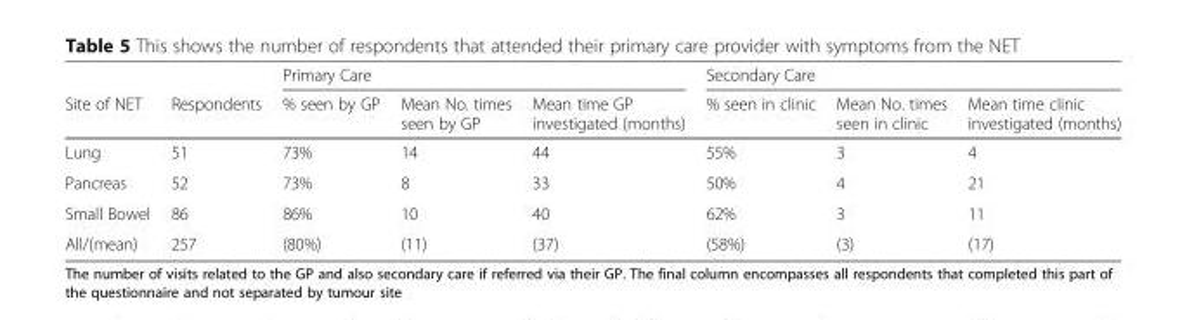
<table><thead><tr><td rowspan="2">Site of NET</td><td rowspan="2">Respondents</td><td colspan="3">Primary Care</td><td colspan="3">Secondary Care</td></tr><tr><td>% seen by GP</td><td>Mean No. times seen by GP</td><td>Mean time GP investigated (months)</td><td>% seen in clinic</td><td>Mean No. times seen in clinic</td><td>Mean time clinic investigated (months)</td></tr></thead><tbody><tr><td>Lung</td><td>51</td><td>73%</td><td>14</td><td>44</td><td>55%</td><td>3</td><td>4</td></tr><tr><td>Pancreas</td><td>52</td><td>73%</td><td>8</td><td>33</td><td>50%</td><td>4</td><td>21</td></tr><tr><td>Small Bowel</td><td>86</td><td>86%</td><td>10</td><td>40</td><td>62%</td><td>3</td><td>11</td></tr><tr><td>All/(mean)</td><td>257</td><td>(80%)</td><td>(11)</td><td>(37)</td><td>(58%)</td><td>(3)</td><td>(17)</td></tr></tbody></table>